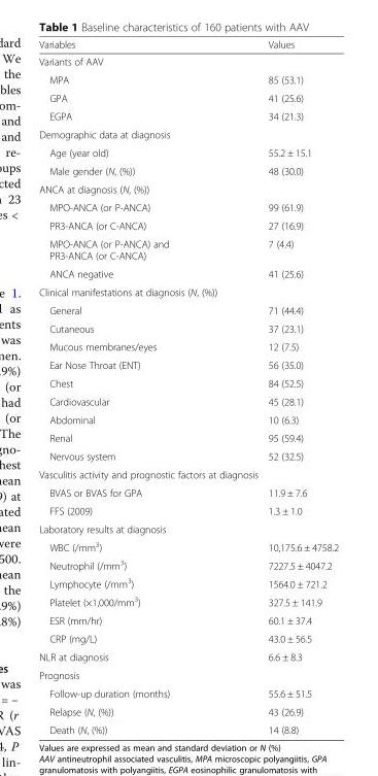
<table><thead><tr><td>Variables</td><td>Values</td></tr></thead><tbody><tr><td colspan="2">Variants of AAV</td></tr><tr><td>MPA</td><td>85 (53.1)</td></tr><tr><td>GPA</td><td>41 (25.6)</td></tr><tr><td>EGPA</td><td>34 (21.3)</td></tr><tr><td colspan="2">Demographic data at diagnosis</td></tr><tr><td>Age (year old)</td><td>55.2 ± 15.1</td></tr><tr><td>Male gender (N, (%))</td><td>48 (30.0)</td></tr><tr><td colspan="2">ANCA at diagnosis (N, (%))</td></tr><tr><td>MPO-ANCA (or P-ANCA)</td><td>99 (61.9)</td></tr><tr><td>PR3-ANCA (or C-ANCA)</td><td>27 (16.9)</td></tr><tr><td>MPO-ANCA (or P-ANCA) and PR3-ANCA (or C-ANCA)</td><td>7 (4.4)</td></tr><tr><td>ANCA negative</td><td>41 (25.6)</td></tr><tr><td colspan="2">Clinical manifestations at diagnosis (N, (%))</td></tr><tr><td>General</td><td>71 (44.4)</td></tr><tr><td>Cutaneous</td><td>37 (23.1)</td></tr><tr><td>Mucous membranes/eyes</td><td>12 (7.5)</td></tr><tr><td>Ear Nose Throat (ENT)</td><td>56 (35.0)</td></tr><tr><td>Chest</td><td>84 (52.5)</td></tr><tr><td>Cardiovascular</td><td>45 (28.1)</td></tr><tr><td>Abdominal</td><td>10 (6.3)</td></tr><tr><td>Renal</td><td>95 (59.4)</td></tr><tr><td>Nervous system</td><td>52 (32.5)</td></tr><tr><td colspan="2">Vasculitis activity and prognostic factors at diagnosis</td></tr><tr><td>BVAS or BVAS for GPA</td><td>11.9 ± 7.6</td></tr><tr><td>FFS (2009)</td><td>1.3 ± 1.0</td></tr><tr><td colspan="2">Laboratory results at diagnosis</td></tr><tr><td>WBC (/mm<sup>3</sup>)</td><td>10,175.6 ± 4758.2</td></tr><tr><td>Neutrophil (/mm<sup>3</sup>)</td><td>7227.5 ± 4047.2</td></tr><tr><td>Lymphocyte (/mm<sup>3</sup>)</td><td>1564.0 ± 721.2</td></tr><tr><td>Platelet (×1,000/mm<sup>3</sup>)</td><td>327.5 ± 141.9</td></tr><tr><td>ESR (mm/hr)</td><td>60.1 ± 37.4</td></tr><tr><td>CRP (mg/L)</td><td>43.0 ± 56.5</td></tr><tr><td>NLR at diagnosis</td><td>6.6 ± 8.3</td></tr><tr><td colspan="2">Prognosis</td></tr><tr><td>Follow-up duration (months)</td><td>55.6 ± 51.5</td></tr><tr><td>Relapse (N, (%))</td><td>43 (26.9)</td></tr><tr><td>Death (N, (%))</td><td>14 (8.8)</td></tr></tbody></table>